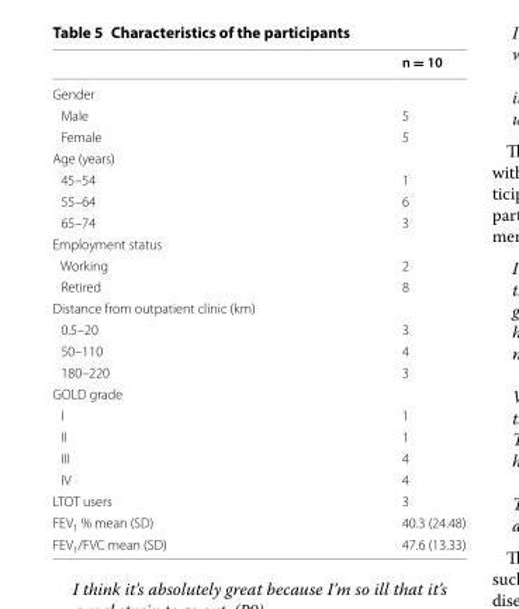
<table><thead><tr><td></td><td>n = 10</td></tr></thead><tbody><tr><td colspan="2">Gender</td></tr><tr><td>Male</td><td>5</td></tr><tr><td>Female</td><td>5</td></tr><tr><td colspan="2">Age (years)</td></tr><tr><td>45–54</td><td>1</td></tr><tr><td>55–64</td><td>6</td></tr><tr><td>65–74</td><td>3</td></tr><tr><td colspan="2">Employment status</td></tr><tr><td>Working</td><td>2</td></tr><tr><td>Retired</td><td>8</td></tr><tr><td colspan="2">Distance from outpatient clinic (km)</td></tr><tr><td>0.5–20</td><td>3</td></tr><tr><td>50–110</td><td>4</td></tr><tr><td>180–220</td><td>3</td></tr><tr><td colspan="2">GOLD grade</td></tr><tr><td>I</td><td>1</td></tr><tr><td>II</td><td>1</td></tr><tr><td>III</td><td>4</td></tr><tr><td>IV</td><td>4</td></tr><tr><td>LTOT users</td><td>3</td></tr><tr><td>FEV<sub>1</sub> % mean (SD)</td><td>40.3 (24.48)</td></tr><tr><td>FEV<sub>1</sub>/FVC mean (SD)</td><td>47.6 (13.33)</td></tr></tbody></table>